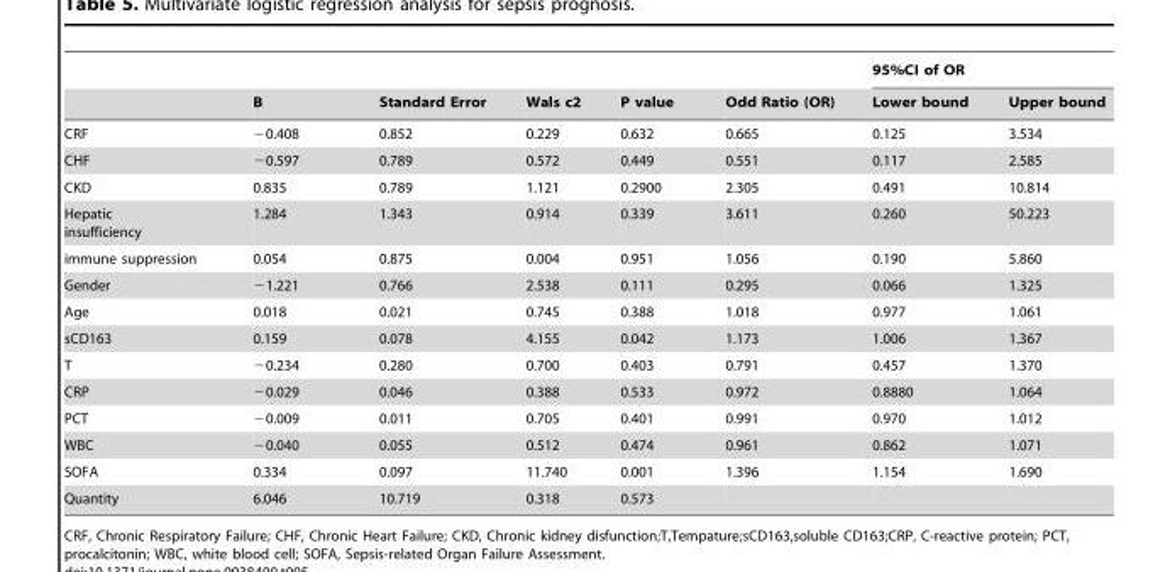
<table><thead><tr><td rowspan="2"></td><td rowspan="2">B</td><td rowspan="2">Standard Error</td><td rowspan="2">Wals c2</td><td rowspan="2">P value</td><td rowspan="2">Odd Ratio (OR)</td><td colspan="2">95%CI of OR</td></tr><tr><td>Lower bound</td><td>Upper bound</td></tr></thead><tbody><tr><td>CRF</td><td>−0.408</td><td>0.852</td><td>0.229</td><td>0.632</td><td>0.665</td><td>0.125</td><td>3.534</td></tr><tr><td>CHF</td><td>−0.597</td><td>0.789</td><td>0.572</td><td>0.449</td><td>0.551</td><td>0.117</td><td>2.585</td></tr><tr><td>CKD</td><td>0.835</td><td>0.789</td><td>1.121</td><td>0.2900</td><td>2.305</td><td>0.491</td><td>10.814</td></tr><tr><td>Hepatic insufficiency</td><td>1.284</td><td>1.343</td><td>0.914</td><td>0.339</td><td>3.611</td><td>0.260</td><td>50.223</td></tr><tr><td>immune suppression</td><td>0.054</td><td>0.875</td><td>0.004</td><td>0.951</td><td>1.056</td><td>0.190</td><td>5.860</td></tr><tr><td>Gender</td><td>−1.221</td><td>0.766</td><td>2.538</td><td>0.111</td><td>0.295</td><td>0.066</td><td>1.325</td></tr><tr><td>Age</td><td>0.018</td><td>0.021</td><td>0.745</td><td>0.388</td><td>1.018</td><td>0.977</td><td>1.061</td></tr><tr><td>sCD163</td><td>0.159</td><td>0.078</td><td>4.155</td><td>0.042</td><td>1.173</td><td>1.006</td><td>1.367</td></tr><tr><td>T</td><td>−0.234</td><td>0.280</td><td>0.700</td><td>0.403</td><td>0.791</td><td>0.457</td><td>1.370</td></tr><tr><td>CRP</td><td>−0.029</td><td>0.046</td><td>0.388</td><td>0.533</td><td>0.972</td><td>0.8880</td><td>1.064</td></tr><tr><td>PCT</td><td>−0.009</td><td>0.011</td><td>0.705</td><td>0.401</td><td>0.991</td><td>0.970</td><td>1.012</td></tr><tr><td>WBC</td><td>−0.040</td><td>0.055</td><td>0.512</td><td>0.474</td><td>0.961</td><td>0.862</td><td>1.071</td></tr><tr><td>SOFA</td><td>0.334</td><td>0.097</td><td>11.740</td><td>0.001</td><td>1.396</td><td>1.154</td><td>1.690</td></tr><tr><td>Quantity</td><td>6.046</td><td>10.719</td><td>0.318</td><td>0.573</td><td></td><td></td><td></td></tr></tbody></table>